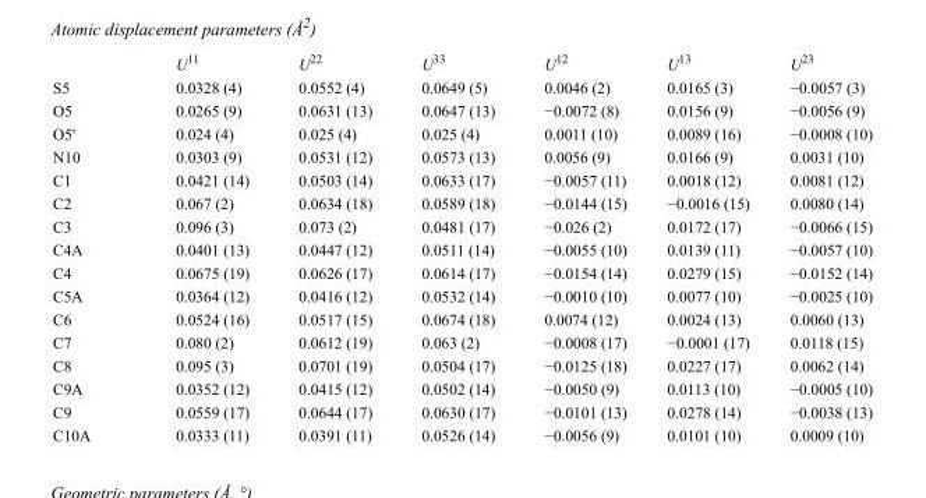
<table><thead><tr><td></td><td>U<sup>11</sup></td><td>U<sup>22</sup></td><td>U<sup>33</sup></td><td>U<sup>12</sup></td><td>U<sup>13</sup></td><td>U<sup>23</sup></td></tr></thead><tbody><tr><td>S5</td><td>0.0328 (4)</td><td>0.0552 (4)</td><td>0.0649 (5)</td><td>0.0046 (2)</td><td>0.0165 (3)</td><td>−0.0057 (3)</td></tr><tr><td>O5</td><td>0.0265 (9)</td><td>0.0631 (13)</td><td>0.0647 (13)</td><td>−0.0072 (8)</td><td>0.0156 (9)</td><td>−0.0056 (9)</td></tr><tr><td>O5&#x27;</td><td>0.024 (4)</td><td>0.025 (4)</td><td>0.025 (4)</td><td>0.0011 (10)</td><td>0.0089 (16)</td><td>−0.0008 (10)</td></tr><tr><td>N10</td><td>0.0303 (9)</td><td>0.0531 (12)</td><td>0.0573 (13)</td><td>0.0056 (9)</td><td>0.0166 (9)</td><td>0.0031 (10)</td></tr><tr><td>C1</td><td>0.0421 (14)</td><td>0.0503 (14)</td><td>0.0633 (17)</td><td>−0.0057 (11)</td><td>0.0018 (12)</td><td>0.0081 (12)</td></tr><tr><td>C2</td><td>0.067 (2)</td><td>0.0634 (18)</td><td>0.0589 (18)</td><td>−0.0144 (15)</td><td>−0.0016 (15)</td><td>0.0080 (14)</td></tr><tr><td>C3</td><td>0.096 (3)</td><td>0.073 (2)</td><td>0.0481 (17)</td><td>−0.026 (2)</td><td>0.0172 (17)</td><td>−0.0066 (15)</td></tr><tr><td>C4A</td><td>0.0401 (13)</td><td>0.0447 (12)</td><td>0.0511 (14)</td><td>−0.0055 (10)</td><td>0.0139 (11)</td><td>−0.0057 (10)</td></tr><tr><td>C4</td><td>0.0675 (19)</td><td>0.0626 (17)</td><td>0.0614 (17)</td><td>−0.0154 (14)</td><td>0.0279 (15)</td><td>−0.0152 (14)</td></tr><tr><td>C5A</td><td>0.0364 (12)</td><td>0.0416 (12)</td><td>0.0532 (14)</td><td>−0.0010 (10)</td><td>0.0077 (10)</td><td>−0.0025 (10)</td></tr><tr><td>C6</td><td>0.0524 (16)</td><td>0.0517 (15)</td><td>0.0674 (18)</td><td>0.0074 (12)</td><td>0.0024 (13)</td><td>0.0060 (13)</td></tr><tr><td>C7</td><td>0.080 (2)</td><td>0.0612 (19)</td><td>0.063 (2)</td><td>−0.0008 (17)</td><td>−0.0001 (17)</td><td>0.0118 (15)</td></tr><tr><td>C8</td><td>0.095 (3)</td><td>0.0701 (19)</td><td>0.0504 (17)</td><td>−0.0125 (18)</td><td>0.0227 (17)</td><td>0.0062 (14)</td></tr><tr><td>C9A</td><td>0.0352 (12)</td><td>0.0415 (12)</td><td>0.0502 (14)</td><td>−0.0050 (9)</td><td>0.0113 (10)</td><td>−0.0005 (10)</td></tr><tr><td>C9</td><td>0.0559 (17)</td><td>0.0644 (17)</td><td>0.0630 (17)</td><td>−0.0101 (13)</td><td>0.0278 (14)</td><td>−0.0038 (13)</td></tr><tr><td>C10A</td><td>0.0333 (11)</td><td>0.0391 (11)</td><td>0.0526 (14)</td><td>−0.0056 (9)</td><td>0.0101 (10)</td><td>0.0009 (10)</td></tr></tbody></table>